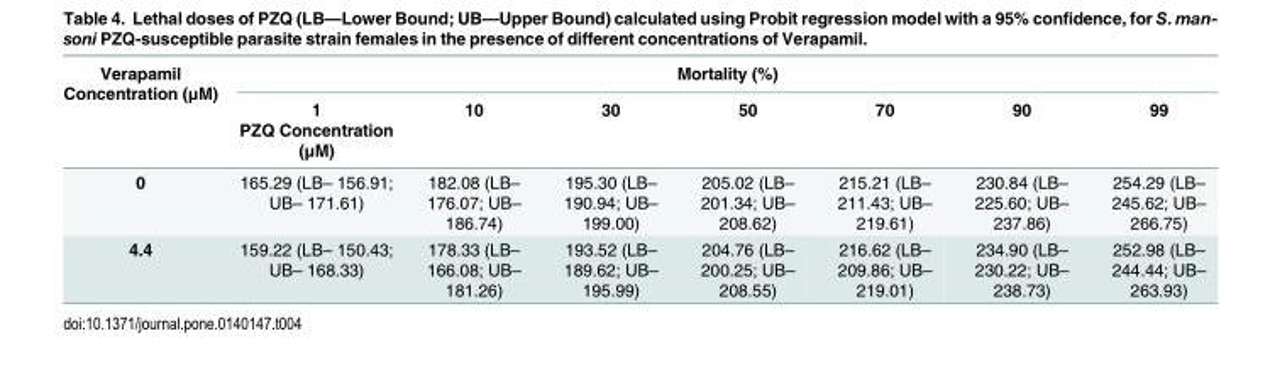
<table><thead><tr><td rowspan="3">Verapamil Concentration (μM)</td><td colspan="7">Mortality (%)</td></tr><tr><td rowspan="2">1 PZQ Concentration (μM)</td><td rowspan="2">10</td><td rowspan="2">30</td><td rowspan="2">50</td><td rowspan="2">70</td><td rowspan="2">90</td><td rowspan="2">99</td></tr><tr></tr></thead><tbody><tr><td>0</td><td>165.29 (LB– 156.91; UB– 171.61)</td><td>182.08 (LB– 176.07; UB– 186.74)</td><td>195.30 (LB– 190.94; UB– 199.00)</td><td>205.02 (LB– 201.34; UB– 208.62)</td><td>215.21 (LB– 211.43; UB– 219.61)</td><td>230.84 (LB– 225.60; UB– 237.86)</td><td>254.29 (LB– 245.62; UB– 266.75)</td></tr><tr><td>4.4</td><td>159.22 (LB– 150.43; UB– 168.33)</td><td>178.33 (LB– 166.08; UB– 181.26)</td><td>193.52 (LB– 189.62; UB– 195.99)</td><td>204.76 (LB– 200.25; UB– 208.55)</td><td>216.62 (LB– 209.86; UB– 219.01)</td><td>234.90 (LB– 230.22; UB– 238.73)</td><td>252.98 (LB– 244.44; UB– 263.93)</td></tr></tbody></table>